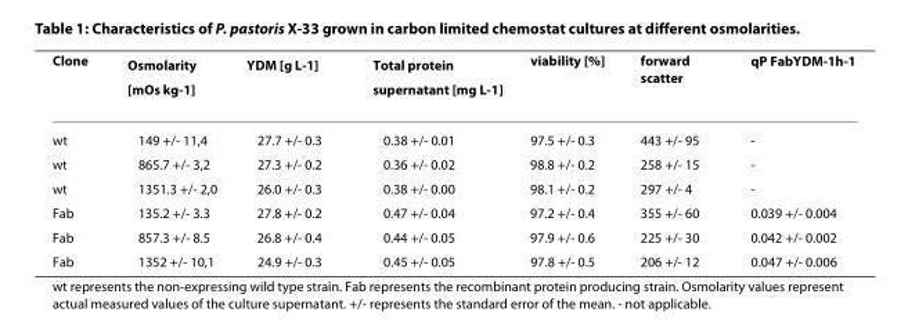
<table><thead><tr><td>Clone</td><td>Osmolarity [mOs kg<sup>-1</sup>]</td><td>YDM [g L<sup>-1</sup>]</td><td>Total protein supernatant [mg L<sup>-1</sup>]</td><td>viability [%]</td><td>forward scatter</td><td>qP FabYDM<sup>-1</sup>h<sup>-1</sup></td></tr></thead><tbody><tr><td>wt</td><td>149 +/- 11,4</td><td>27.7 +/- 0.3</td><td>0.38 +/- 0.01</td><td>97.5 +/- 0.3</td><td>443 +/- 95</td><td>-</td></tr><tr><td>wt</td><td>865.7 +/- 3,2</td><td>27.3 +/- 0.2</td><td>0.36 +/- 0.02</td><td>98.8 +/- 0.2</td><td>258 +/- 15</td><td>-</td></tr><tr><td>wt</td><td>1351.3 +/- 2,0</td><td>26.0 +/- 0.3</td><td>0.38 +/- 0.00</td><td>98.1 +/- 0.2</td><td>297 +/- 4</td><td>-</td></tr><tr><td>Fab</td><td>135.2 +/- 3.3</td><td>27.8 +/- 0.2</td><td>0.47 +/- 0.04</td><td>97.2 +/- 0.4</td><td>355 +/- 60</td><td>0.039 +/- 0.004</td></tr><tr><td>Fab</td><td>857.3 +/- 8.5</td><td>26.8 +/- 0.4</td><td>0.44 +/- 0.05</td><td>97.9 +/- 0.6</td><td>225 +/- 30</td><td>0.042 +/- 0.002</td></tr><tr><td>Fab</td><td>1352 +/- 10,1</td><td>24.9 +/- 0.3</td><td>0.45 +/- 0.05</td><td>97.8 +/- 0.5</td><td>206 +/- 12</td><td>0.047 +/- 0.006</td></tr></tbody></table>